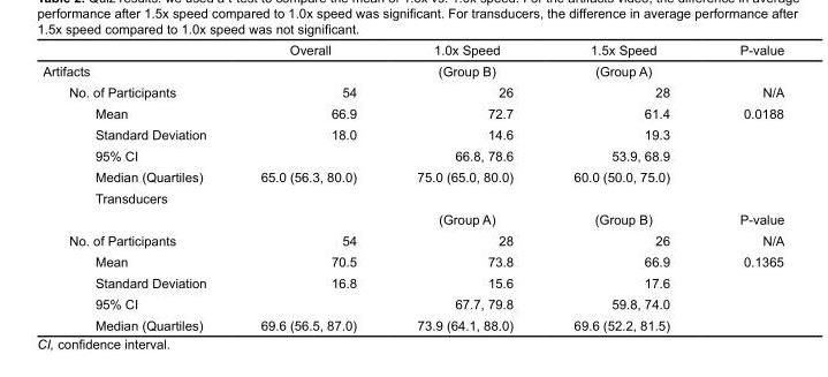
<table><thead><tr><td></td><td>Overall</td><td>1.0x Speed</td><td>1.5x Speed</td><td>P-value</td></tr></thead><tbody><tr><td>Artifacts</td><td></td><td>(Group B)</td><td>(Group A)</td><td></td></tr><tr><td>No. of Participants</td><td>54</td><td>26</td><td>28</td><td>N/A</td></tr><tr><td>Mean</td><td>66.9</td><td>72.7</td><td>61.4</td><td>0.0188</td></tr><tr><td>Standard Deviation</td><td>18.0</td><td>14.6</td><td>19.3</td><td></td></tr><tr><td>95% CI</td><td></td><td>66.8, 78.6</td><td>53.9, 68.9</td><td></td></tr><tr><td>Median (Quartiles)</td><td>65.0 (56.3, 80.0)</td><td>75.0 (65.0, 80.0)</td><td>60.0 (50.0, 75.0)</td><td></td></tr><tr><td colspan="5">Transducers</td></tr><tr><td></td><td></td><td>(Group A)</td><td>(Group B)</td><td>P-value</td></tr><tr><td>No. of Participants</td><td>54</td><td>28</td><td>26</td><td>N/A</td></tr><tr><td>Mean</td><td>70.5</td><td>73.8</td><td>66.9</td><td>0.1365</td></tr><tr><td>Standard Deviation</td><td>16.8</td><td>15.6</td><td>17.6</td><td></td></tr><tr><td>95% CI</td><td></td><td>67.7, 79.8</td><td>59.8, 74.0</td><td></td></tr><tr><td>Median (Quartiles)</td><td>69.6 (56.5, 87.0)</td><td>73.9 (64.1, 88.0)</td><td>69.6 (52.2, 81.5)</td><td></td></tr></tbody></table>